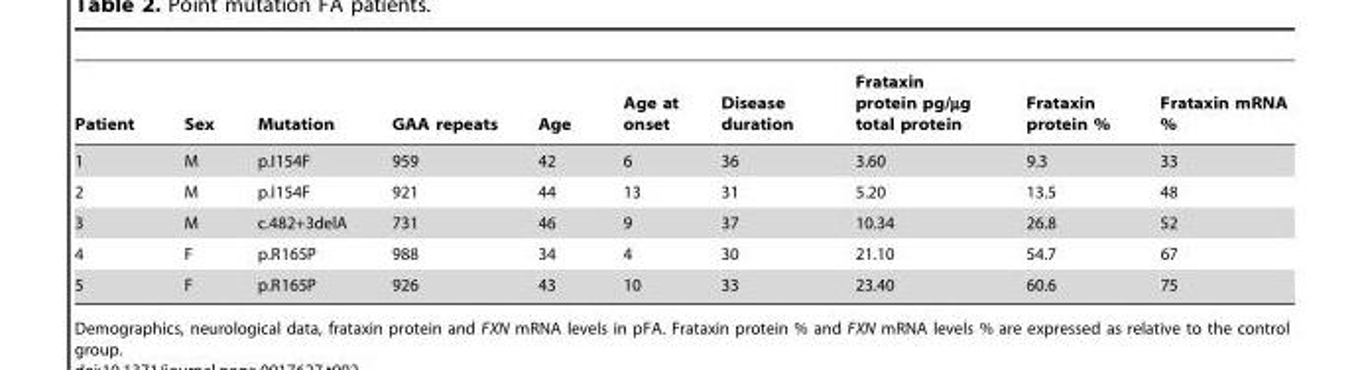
<table><thead><tr><td>Patient</td><td>Sex</td><td>Mutation</td><td>GAA repeats</td><td>Age</td><td>Age at onset</td><td>Disease duration</td><td>Frataxin protein pg/µg total protein</td><td>Frataxin protein %</td><td>Frataxin mRNA %</td></tr></thead><tbody><tr><td>1</td><td>M</td><td>p.I154F</td><td>959</td><td>42</td><td>6</td><td>36</td><td>3.60</td><td>9.3</td><td>33</td></tr><tr><td>2</td><td>M</td><td>p.I154F</td><td>921</td><td>44</td><td>13</td><td>31</td><td>5.20</td><td>13.5</td><td>48</td></tr><tr><td>3</td><td>M</td><td>c.482+3delA</td><td>731</td><td>46</td><td>9</td><td>37</td><td>10.34</td><td>26.8</td><td>52</td></tr><tr><td>4</td><td>F</td><td>p.R165P</td><td>988</td><td>34</td><td>4</td><td>30</td><td>21.10</td><td>54.7</td><td>67</td></tr><tr><td>5</td><td>F</td><td>p.R165P</td><td>926</td><td>43</td><td>10</td><td>33</td><td>23.40</td><td>60.6</td><td>75</td></tr></tbody></table>